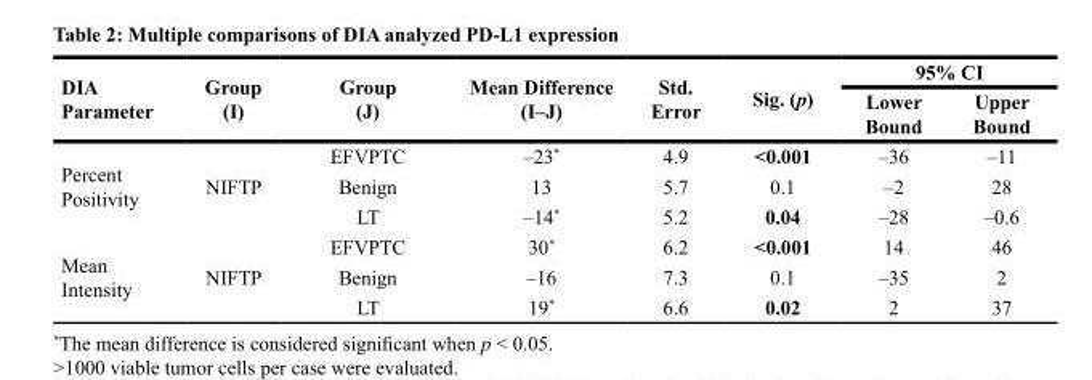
<table><thead><tr><td rowspan="2">DIA Parameter</td><td rowspan="2">Group (I)</td><td rowspan="2">Group (J)</td><td rowspan="2">Mean Difference (I–J)</td><td rowspan="2">Std. Error</td><td rowspan="2">Sig. (p)</td><td colspan="2">95% CI</td></tr><tr><td>Lower Bound</td><td>Upper Bound</td></tr></thead><tbody><tr><td rowspan="3">Percent Positivity</td><td rowspan="3">NIFTP</td><td>EFVPTC</td><td>–23*</td><td>4.9</td><td>&lt;0.001</td><td>–36</td><td>–11</td></tr><tr><td>Benign</td><td>13</td><td>5.7</td><td>0.1</td><td>–2</td><td>28</td></tr><tr><td>LT</td><td>–14*</td><td>5.2</td><td>0.04</td><td>–28</td><td>–0.6</td></tr><tr><td rowspan="3">Mean Intensity</td><td rowspan="3">NIFTP</td><td>EFVPTC</td><td>30*</td><td>6.2</td><td>&lt;0.001</td><td>14</td><td>46</td></tr><tr><td>Benign</td><td>–16</td><td>7.3</td><td>0.1</td><td>–35</td><td>2</td></tr><tr><td>LT</td><td>19*</td><td>6.6</td><td>0.02</td><td>2</td><td>37</td></tr></tbody></table>